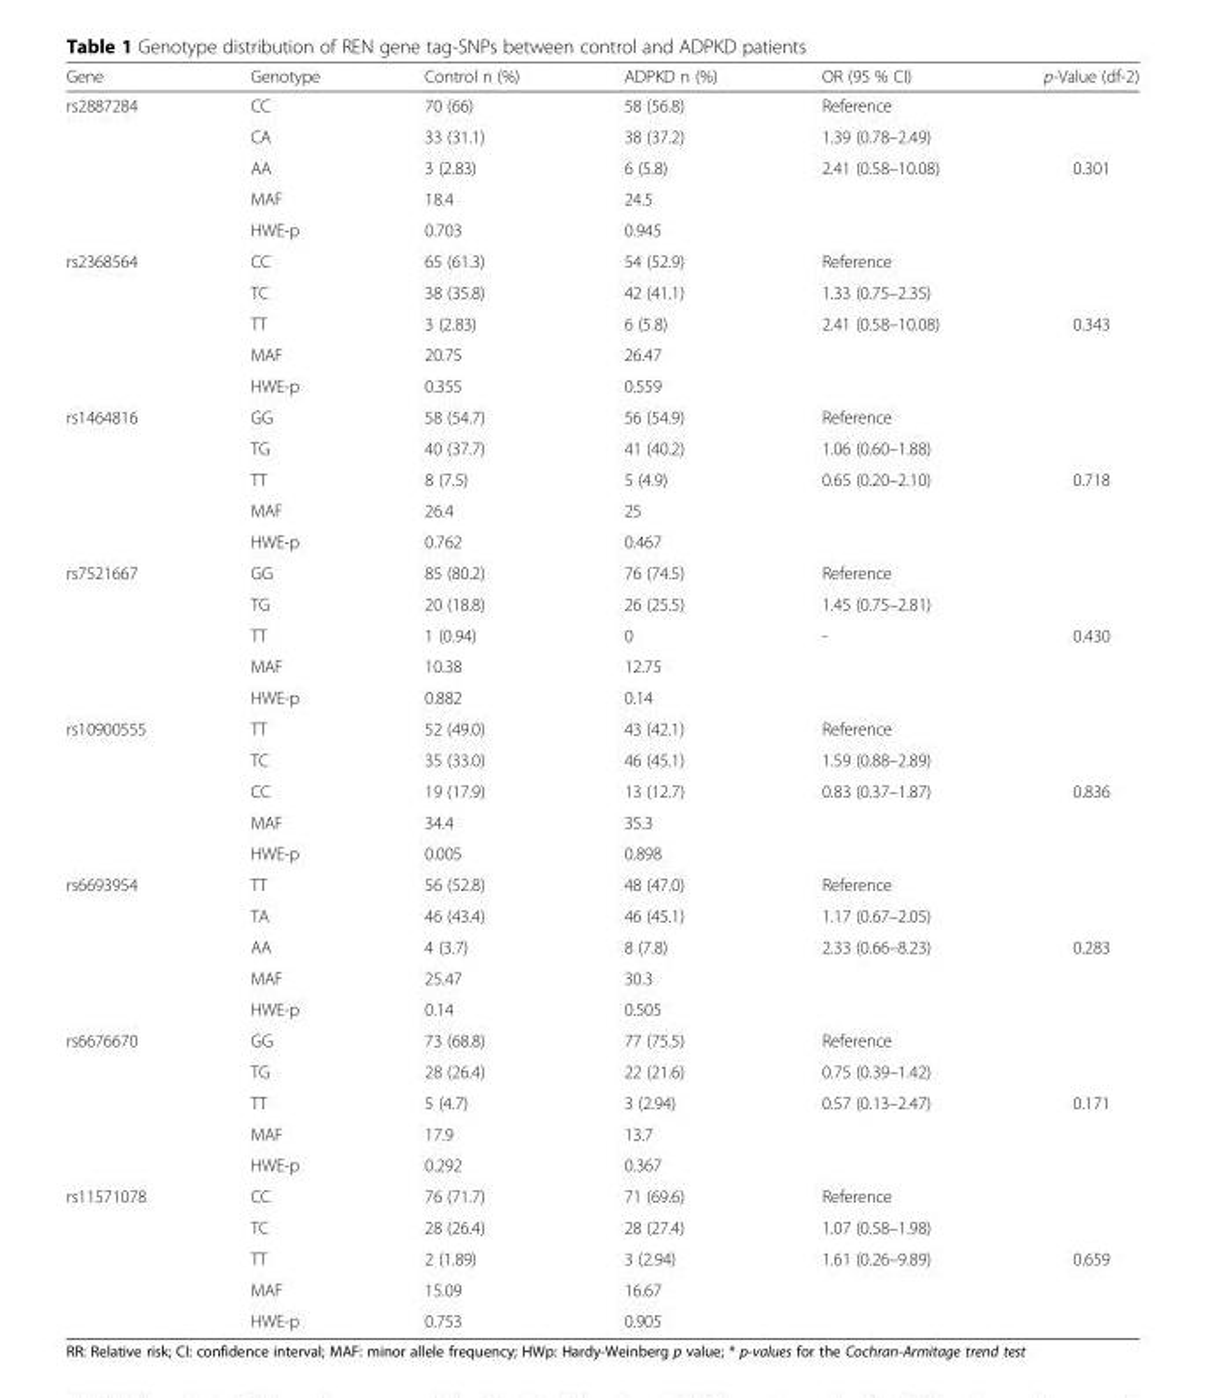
<table><thead><tr><td>Gene</td><td>Genotype</td><td>Control n (%)</td><td>ADPKD n (%)</td><td>OR (95 % CI)</td><td>p-Value (df-2)</td></tr></thead><tbody><tr><td rowspan="5">rs2887284</td><td>CC</td><td>70 (66)</td><td>58 (56.8)</td><td>Reference</td><td></td></tr><tr><td>CA</td><td>33 (31.1)</td><td>38 (37.2)</td><td>1.39 (0.78–2.49)</td><td></td></tr><tr><td>AA</td><td>3 (2.83)</td><td>6 (5.8)</td><td>2.41 (0.58–10.08)</td><td>0.301</td></tr><tr><td>MAF</td><td>18.4</td><td>24.5</td><td></td><td></td></tr><tr><td>HWE-p</td><td>0.703</td><td>0.945</td><td></td><td></td></tr><tr><td rowspan="5">rs2368564</td><td>CC</td><td>65 (61.3)</td><td>54 (52.9)</td><td>Reference</td><td></td></tr><tr><td>TC</td><td>38 (35.8)</td><td>42 (41.1)</td><td>1.33 (0.75–2.35)</td><td></td></tr><tr><td>TT</td><td>3 (2.83)</td><td>6 (5.8)</td><td>2.41 (0.58–10.08)</td><td>0.343</td></tr><tr><td>MAF</td><td>20.75</td><td>26.47</td><td></td><td></td></tr><tr><td>HWE-p</td><td>0.355</td><td>0.559</td><td></td><td></td></tr><tr><td rowspan="5">rs1464816</td><td>GG</td><td>58 (54.7)</td><td>56 (54.9)</td><td>Reference</td><td></td></tr><tr><td>TG</td><td>40 (37.7)</td><td>41 (40.2)</td><td>1.06 (0.60–1.88)</td><td></td></tr><tr><td>TT</td><td>8 (7.5)</td><td>5 (4.9)</td><td>0.65 (0.20–2.10)</td><td>0.718</td></tr><tr><td>MAF</td><td>26.4</td><td>25</td><td></td><td></td></tr><tr><td>HWE-p</td><td>0.762</td><td>0.467</td><td></td><td></td></tr><tr><td rowspan="5">rs7521667</td><td>GG</td><td>85 (80.2)</td><td>76 (74.5)</td><td>Reference</td><td></td></tr><tr><td>TG</td><td>20 (18.8)</td><td>26 (25.5)</td><td>1.45 (0.75–2.81)</td><td></td></tr><tr><td>TT</td><td>1 (0.94)</td><td>0</td><td>-</td><td>0.430</td></tr><tr><td>MAF</td><td>10.38</td><td>12.75</td><td></td><td></td></tr><tr><td>HWE-p</td><td>0.882</td><td>0.14</td><td></td><td></td></tr><tr><td rowspan="5">rs10900555</td><td>TT</td><td>52 (49.0)</td><td>43 (42.1)</td><td>Reference</td><td></td></tr><tr><td>TC</td><td>35 (33.0)</td><td>46 (45.1)</td><td>1.59 (0.88–2.89)</td><td></td></tr><tr><td>CC</td><td>19 (17.9)</td><td>13 (12.7)</td><td>0.83 (0.37–1.87)</td><td>0.836</td></tr><tr><td>MAF</td><td>34.4</td><td>35.3</td><td></td><td></td></tr><tr><td>HWE-p</td><td>0.005</td><td>0.898</td><td></td><td></td></tr><tr><td rowspan="5">rs6693954</td><td>TT</td><td>56 (52.8)</td><td>48 (47.0)</td><td>Reference</td><td></td></tr><tr><td>TA</td><td>46 (43.4)</td><td>46 (45.1)</td><td>1.17 (0.67–2.05)</td><td></td></tr><tr><td>AA</td><td>4 (3.7)</td><td>8 (7.8)</td><td>2.33 (0.66–8.23)</td><td>0.283</td></tr><tr><td>MAF</td><td>25.47</td><td>30.3</td><td></td><td></td></tr><tr><td>HWE-p</td><td>0.14</td><td>0.505</td><td></td><td></td></tr><tr><td rowspan="5">rs6676670</td><td>GG</td><td>73 (68.8)</td><td>77 (75.5)</td><td>Reference</td><td></td></tr><tr><td>TG</td><td>28 (26.4)</td><td>22 (21.6)</td><td>0.75 (0.39–1.42)</td><td></td></tr><tr><td>TT</td><td>5 (4.7)</td><td>3 (2.94)</td><td>0.57 (0.13–2.47)</td><td>0.171</td></tr><tr><td>MAF</td><td>17.9</td><td>13.7</td><td></td><td></td></tr><tr><td>HWE-p</td><td>0.292</td><td>0.367</td><td></td><td></td></tr><tr><td rowspan="5">rs11571078</td><td>CC</td><td>76 (71.7)</td><td>71 (69.6)</td><td>Reference</td><td></td></tr><tr><td>TC</td><td>28 (26.4)</td><td>28 (27.4)</td><td>1.07 (0.58–1.98)</td><td></td></tr><tr><td>TT</td><td>2 (1.89)</td><td>3 (2.94)</td><td>1.61 (0.26–9.89)</td><td>0.659</td></tr><tr><td>MAF</td><td>15.09</td><td>16.67</td><td></td><td></td></tr><tr><td>HWE-p</td><td>0.753</td><td>0.905</td><td></td><td></td></tr></tbody></table>